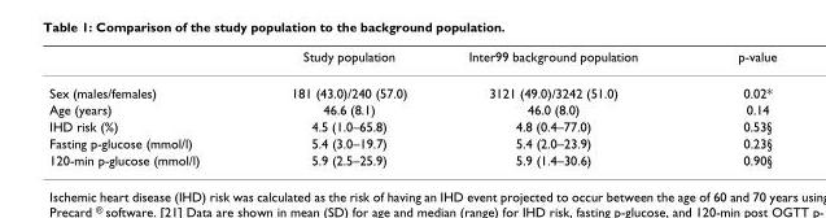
<table><thead><tr><td></td><td>Study population</td><td>Inter99 background population</td><td>p-value</td></tr></thead><tbody><tr><td>Sex (males/females)</td><td>181 (43.0)/240 (57.0)</td><td>3121 (49.0)/3242 (51.0)</td><td>0.02*</td></tr><tr><td>Age (years)</td><td>46.6 (8.1)</td><td>46.0 (8.0)</td><td>0.14</td></tr><tr><td>IHD risk (%)</td><td>4.5 (1.0–65.8)</td><td>4.8 (0.4–77.0)</td><td>0.53§</td></tr><tr><td>Fasting p-glucose (mmol/l)</td><td>5.4 (3.0–19.7)</td><td>5.4 (2.0–23.9)</td><td>0.23§</td></tr><tr><td>120-min p-glucose (mmol/l)</td><td>5.9 (2.5–25.9)</td><td>5.9 (1.4–30.6)</td><td>0.90§</td></tr></tbody></table>